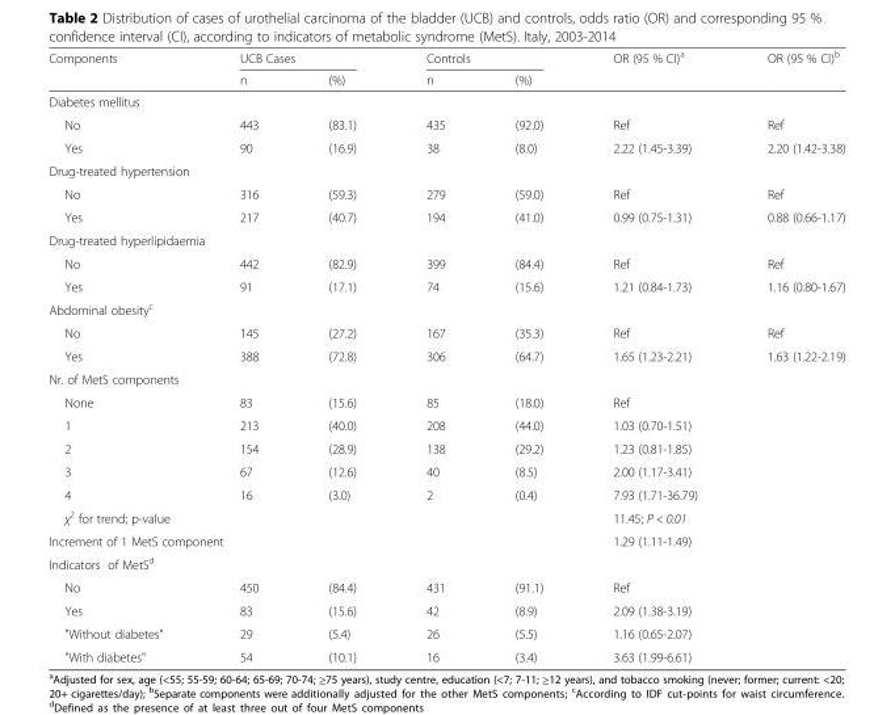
<table><thead><tr><td rowspan="2">Components</td><td colspan="2">UCB Cases</td><td colspan="2">Controls</td><td rowspan="2">OR (95 % CI)<sup>a</sup></td><td rowspan="2">OR (95 % CI)<sup>b</sup></td></tr><tr><td>n</td><td>(%)</td><td>n</td><td>(%)</td></tr></thead><tbody><tr><td colspan="7">Diabetes mellitus</td></tr><tr><td>No</td><td>443</td><td>(83.1)</td><td>435</td><td>(92.0)</td><td>Ref</td><td>Ref</td></tr><tr><td>Yes</td><td>90</td><td>(16.9)</td><td>38</td><td>(8.0)</td><td>2.22 (1.45-3.39)</td><td>2.20 (1.42-3.38)</td></tr><tr><td colspan="7">Drug-treated hypertension</td></tr><tr><td>No</td><td>316</td><td>(59.3)</td><td>279</td><td>(59.0)</td><td>Ref</td><td>Ref</td></tr><tr><td>Yes</td><td>217</td><td>(40.7)</td><td>194</td><td>(41.0)</td><td>0.99 (0.75-1.31)</td><td>0.88 (0.66-1.17)</td></tr><tr><td colspan="7">Drug-treated hyperlipidaemia</td></tr><tr><td>No</td><td>442</td><td>(82.9)</td><td>399</td><td>(84.4)</td><td>Ref</td><td>Ref</td></tr><tr><td>Yes</td><td>91</td><td>(17.1)</td><td>74</td><td>(15.6)</td><td>1.21 (0.84-1.73)</td><td>1.16 (0.80-1.67)</td></tr><tr><td colspan="7">Abdominal obesity<sup>c</sup></td></tr><tr><td>No</td><td>145</td><td>(27.2)</td><td>167</td><td>(35.3)</td><td>Ref</td><td>Ref</td></tr><tr><td>Yes</td><td>388</td><td>(72.8)</td><td>306</td><td>(64.7)</td><td>1.65 (1.23-2.21)</td><td>1.63 (1.22-2.19)</td></tr><tr><td colspan="7">Nr. of MetS components</td></tr><tr><td>None</td><td>83</td><td>(15.6)</td><td>85</td><td>(18.0)</td><td>Ref</td><td></td></tr><tr><td>1</td><td>213</td><td>(40.0)</td><td>208</td><td>(44.0)</td><td>1.03 (0.70-1.51)</td><td></td></tr><tr><td>2</td><td>154</td><td>(28.9)</td><td>138</td><td>(29.2)</td><td>1.23 (0.81-1.85)</td><td></td></tr><tr><td>3</td><td>67</td><td>(12.6)</td><td>40</td><td>(8.5)</td><td>2.00 (1.17-3.41)</td><td></td></tr><tr><td>4</td><td>16</td><td>(3.0)</td><td>2</td><td>(0.4)</td><td>7.93 (1.71-36.79)</td><td></td></tr><tr><td>χ<sup>2</sup> for trend; p-value</td><td></td><td></td><td></td><td></td><td>11.45; P &lt; 0.01</td><td></td></tr><tr><td colspan="3">Increment of 1 MetS component</td><td></td><td></td><td>1.29 (1.11-1.49)</td><td></td></tr><tr><td colspan="7">Indicators of MetS<sup>d</sup></td></tr><tr><td>No</td><td>450</td><td>(84.4)</td><td>431</td><td>(91.1)</td><td>Ref</td><td></td></tr><tr><td>Yes</td><td>83</td><td>(15.6)</td><td>42</td><td>(8.9)</td><td>2.09 (1.38-3.19)</td><td></td></tr><tr><td>&quot;Without diabetes&quot;</td><td>29</td><td>(5.4)</td><td>26</td><td>(5.5)</td><td>1.16 (0.65-2.07)</td><td></td></tr><tr><td>&quot;With diabetes&quot;</td><td>54</td><td>(10.1)</td><td>16</td><td>(3.4)</td><td>3.63 (1.99-6.61)</td><td></td></tr></tbody></table>